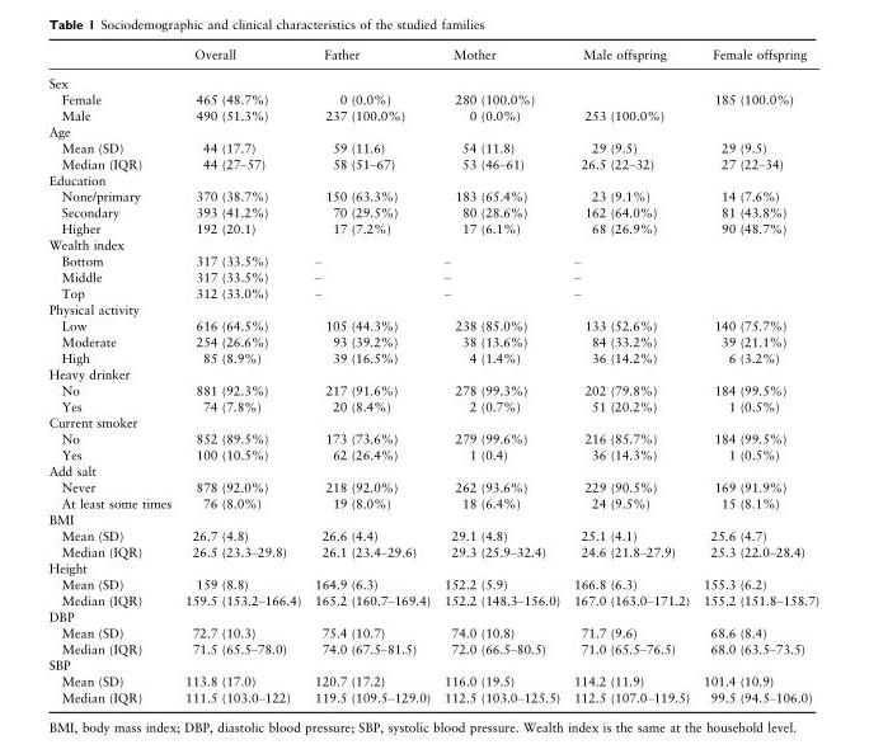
<table><thead><tr><td></td><td>Overall</td><td>Father</td><td>Mother</td><td>Male offspring</td><td>Female offspring</td></tr></thead><tbody><tr><td colspan="6">Sex</td></tr><tr><td>Female</td><td>465 (48.7%)</td><td>0 (0.0%)</td><td>280 (100.0%)</td><td></td><td>185 (100.0%)</td></tr><tr><td>Male</td><td>490 (51.3%)</td><td>237 (100.0%)</td><td>0 (0.0%)</td><td>253 (100.0%)</td><td></td></tr><tr><td colspan="6">Age</td></tr><tr><td>Mean (SD)</td><td>44 (17.7)</td><td>59 (11.6)</td><td>54 (11.8)</td><td>29 (9.5)</td><td>29 (9.5)</td></tr><tr><td>Median (IQR)</td><td>44 (27–57)</td><td>58 (51–67)</td><td>53 (46–61)</td><td>26.5 (22–32)</td><td>27 (22–34)</td></tr><tr><td colspan="6">Education</td></tr><tr><td>None/primary</td><td>370 (38.7%)</td><td>150 (63.3%)</td><td>183 (65.4%)</td><td>23 (9.1%)</td><td>14 (7.6%)</td></tr><tr><td>Secondary</td><td>393 (41.2%)</td><td>70 (29.5%)</td><td>80 (28.6%)</td><td>162 (64.0%)</td><td>81 (43.8%)</td></tr><tr><td>Higher</td><td>192 (20.1)</td><td>17 (7.2%)</td><td>17 (6.1%)</td><td>68 (26.9%)</td><td>90 (48.7%)</td></tr><tr><td colspan="6">Wealth index</td></tr><tr><td>Bottom</td><td>317 (33.5%)</td><td>–</td><td>–</td><td>–</td><td></td></tr><tr><td>Middle</td><td>317 (33.5%)</td><td>–</td><td>–</td><td>–</td><td></td></tr><tr><td>Top</td><td>312 (33.0%)</td><td>–</td><td>–</td><td>–</td><td></td></tr><tr><td colspan="6">Physical activity</td></tr><tr><td>Low</td><td>616 (64.5%)</td><td>105 (44.3%)</td><td>238 (85.0%)</td><td>133 (52.6%)</td><td>140 (75.7%)</td></tr><tr><td>Moderate</td><td>254 (26.6%)</td><td>93 (39.2%)</td><td>38 (13.6%)</td><td>84 (33.2%)</td><td>39 (21.1%)</td></tr><tr><td>High</td><td>85 (8.9%)</td><td>39 (16.5%)</td><td>4 (1.4%)</td><td>36 (14.2%)</td><td>6 (3.2%)</td></tr><tr><td colspan="6">Heavy drinker</td></tr><tr><td>No</td><td>881 (92.3%)</td><td>217 (91.6%)</td><td>278 (99.3%)</td><td>202 (79.8%)</td><td>184 (99.5%)</td></tr><tr><td>Yes</td><td>74 (7.8%)</td><td>20 (8.4%)</td><td>2 (0.7%)</td><td>51 (20.2%)</td><td>1 (0.5%)</td></tr><tr><td colspan="6">Current smoker</td></tr><tr><td>No</td><td>852 (89.5%)</td><td>173 (73.6%)</td><td>279 (99.6%)</td><td>216 (85.7%)</td><td>184 (99.5%)</td></tr><tr><td>Yes</td><td>100 (10.5%)</td><td>62 (26.4%)</td><td>1 (0.4)</td><td>36 (14.3%)</td><td>1 (0.5%)</td></tr><tr><td colspan="6">Add salt</td></tr><tr><td>Never</td><td>878 (92.0%)</td><td>218 (92.0%)</td><td>262 (93.6%)</td><td>229 (90.5%)</td><td>169 (91.9%)</td></tr><tr><td>At least some times</td><td>76 (8.0%)</td><td>19 (8.0%)</td><td>18 (6.4%)</td><td>24 (9.5%)</td><td>15 (8.1%)</td></tr><tr><td colspan="6">BMI</td></tr><tr><td>Mean (SD)</td><td>26.7 (4.8)</td><td>26.6 (4.4)</td><td>29.1 (4.8)</td><td>25.1 (4.1)</td><td>25.6 (4.7)</td></tr><tr><td>Median (IQR)</td><td>26.5 (23.3–29.8)</td><td>26.1 (23.4–29.6)</td><td>29.3 (25.9–32.4)</td><td>24.6 (21.8–27.9)</td><td>25.3 (22.0–28.4)</td></tr><tr><td colspan="6">Height</td></tr><tr><td>Mean (SD)</td><td>159 (8.8)</td><td>164.9 (6.3)</td><td>152.2 (5.9)</td><td>166.8 (6.3)</td><td>155.3 (6.2)</td></tr><tr><td>Median (IQR)</td><td>159.5 (153.2–166.4)</td><td>165.2 (160.7–169.4)</td><td>152.2 (148.3–156.0)</td><td>167.0 (163.0–171.2)</td><td>155.2 (151.8–158.7)</td></tr><tr><td colspan="6">DBP</td></tr><tr><td>Mean (SD)</td><td>72.7 (10.3)</td><td>75.4 (10.7)</td><td>74.0 (10.8)</td><td>71.7 (9.6)</td><td>68.6 (8.4)</td></tr><tr><td>Median (IQR)</td><td>71.5 (65.5–78.0)</td><td>74.0 (67.5–81.5)</td><td>72.0 (66.5–80.5)</td><td>71.0 (65.5–76.5)</td><td>68.0 (63.5–73.5)</td></tr><tr><td colspan="6">SBP</td></tr><tr><td>Mean (SD)</td><td>113.8 (17.0)</td><td>120.7 (17.2)</td><td>116.0 (19.5)</td><td>114.2 (11.9)</td><td>101.4 (10.9)</td></tr><tr><td>Median (IQR)</td><td>111.5 (103.0–122)</td><td>119.5 (109.5–129.0)</td><td>112.5 (103.0–125.5)</td><td>112.5 (107.0–119.5)</td><td>99.5 (94.5–106.0)</td></tr></tbody></table>